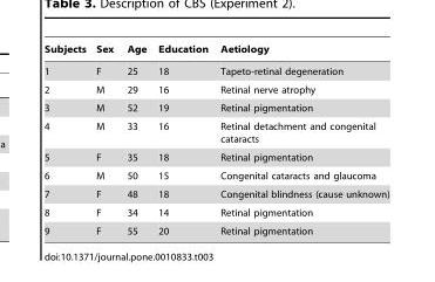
<table><thead><tr><td>Subjects</td><td>Sex</td><td>Age</td><td>Education</td><td>Aetiology</td></tr></thead><tbody><tr><td>1</td><td>F</td><td>25</td><td>18</td><td>Tapeto-retinal degeneration</td></tr><tr><td>2</td><td>M</td><td>29</td><td>16</td><td>Retinal nerve atrophy</td></tr><tr><td>3</td><td>M</td><td>52</td><td>19</td><td>Retinal pigmentation</td></tr><tr><td>4</td><td>M</td><td>33</td><td>16</td><td>Retinal detachment and congenital cataracts</td></tr><tr><td>5</td><td>F</td><td>35</td><td>18</td><td>Retinal pigmentation</td></tr><tr><td>6</td><td>M</td><td>50</td><td>15</td><td>Congenital cataracts and glaucoma</td></tr><tr><td>7</td><td>F</td><td>48</td><td>18</td><td>Congenital blindness (cause unknown)</td></tr><tr><td>8</td><td>F</td><td>34</td><td>14</td><td>Retinal pigmentation</td></tr><tr><td>9</td><td>F</td><td>55</td><td>20</td><td>Retinal pigmentation</td></tr></tbody></table>